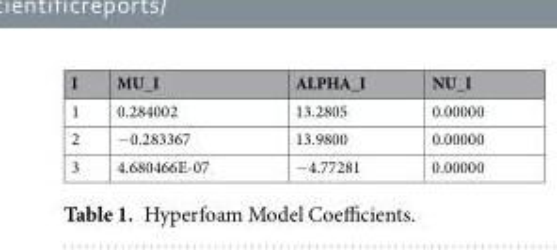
<table><thead><tr><td>I</td><td>MU_I</td><td>ALPHA_I</td><td>NU_I</td></tr></thead><tbody><tr><td>1</td><td>0.284002</td><td>13.2805</td><td>0.00000</td></tr><tr><td>2</td><td>−0.283367</td><td>13.9800</td><td>0.00000</td></tr><tr><td>3</td><td>4.680466E-07</td><td>−4.77281</td><td>0.00000</td></tr></tbody></table>